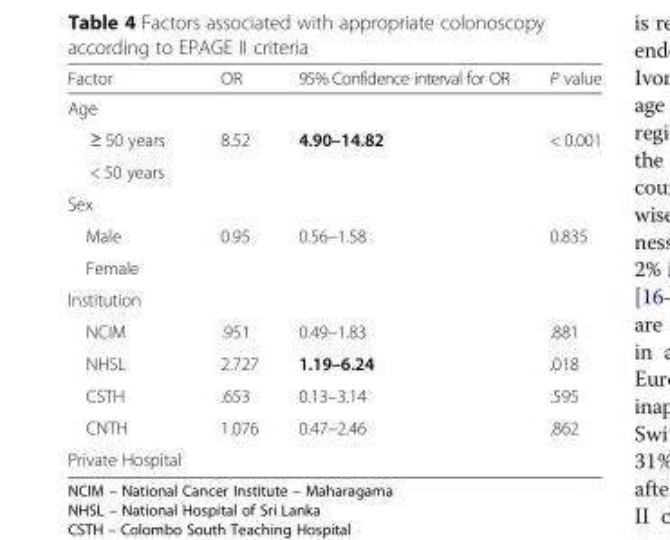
<table><thead><tr><td>Factor</td><td>OR</td><td>95% Confidence interval for OR</td><td>P value</td></tr></thead><tbody><tr><td colspan="4">Age</td></tr><tr><td>≥ 50 years</td><td>8.52</td><td>4.90–14.82</td><td>&lt; 0.001</td></tr><tr><td colspan="4">&lt; 50 years</td></tr><tr><td colspan="4">Sex</td></tr><tr><td>Male</td><td>0.95</td><td>0.56–1.58</td><td>0.835</td></tr><tr><td colspan="4">Female</td></tr><tr><td colspan="4">Institution</td></tr><tr><td>NCIM</td><td>.951</td><td>0.49–1.83</td><td>.881</td></tr><tr><td>NHSL</td><td>2.727</td><td>1.19–6.24</td><td>.018</td></tr><tr><td>CSTH</td><td>.653</td><td>0.13–3.14</td><td>.595</td></tr><tr><td>CNTH</td><td>1.076</td><td>0.47–2.46</td><td>.862</td></tr><tr><td>Private Hospital</td><td></td><td></td><td></td></tr></tbody></table>